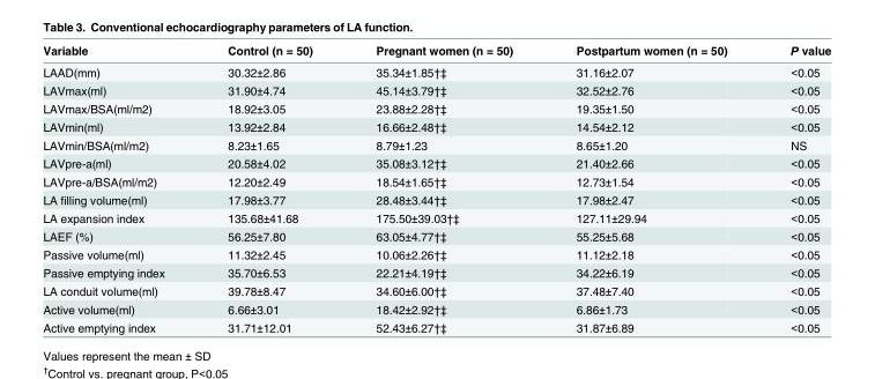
<table><thead><tr><td>Variable</td><td>Control (n = 50)</td><td>Pregnant women (n = 50)</td><td>Postpartum women (n = 50)</td><td>P value</td></tr></thead><tbody><tr><td>LAAD(mm)</td><td>30.32±2.86</td><td>35.34±1.85†‡</td><td>31.16±2.07</td><td>&lt;0.05</td></tr><tr><td>LAVmax(ml)</td><td>31.90±4.74</td><td>45.14±3.79†‡</td><td>32.52±2.76</td><td>&lt;0.05</td></tr><tr><td>LAVmax/BSA(ml/m2)</td><td>18.92±3.05</td><td>23.88±2.28†‡</td><td>19.35±1.50</td><td>&lt;0.05</td></tr><tr><td>LAVmin(ml)</td><td>13.92±2.84</td><td>16.66±2.48†‡</td><td>14.54±2.12</td><td>&lt;0.05</td></tr><tr><td>LAVmin/BSA(ml/m2)</td><td>8.23±1.65</td><td>8.79±1.23</td><td>8.65±1.20</td><td>NS</td></tr><tr><td>LAVpre-a(ml)</td><td>20.58±4.02</td><td>35.08±3.12†‡</td><td>21.40±2.66</td><td>&lt;0.05</td></tr><tr><td>LAVpre-a/BSA(ml/m2)</td><td>12.20±2.49</td><td>18.54±1.65†‡</td><td>12.73±1.54</td><td>&lt;0.05</td></tr><tr><td>LA filling volume(ml)</td><td>17.98±3.77</td><td>28.48±3.44†‡</td><td>17.98±2.47</td><td>&lt;0.05</td></tr><tr><td>LA expansion index</td><td>135.68±41.68</td><td>175.50±39.03†‡</td><td>127.11±29.94</td><td>&lt;0.05</td></tr><tr><td>LAEF (%)</td><td>56.25±7.80</td><td>63.05±4.77†‡</td><td>55.25±5.68</td><td>&lt;0.05</td></tr><tr><td>Passive volume(ml)</td><td>11.32±2.45</td><td>10.06±2.26†‡</td><td>11.12±2.18</td><td>&lt;0.05</td></tr><tr><td>Passive emptying index</td><td>35.70±6.53</td><td>22.21±4.19†‡</td><td>34.22±6.19</td><td>&lt;0.05</td></tr><tr><td>LA conduit volume(ml)</td><td>39.78±8.47</td><td>34.60±6.00†‡</td><td>37.48±7.40</td><td>&lt;0.05</td></tr><tr><td>Active volume(ml)</td><td>6.66±3.01</td><td>18.42±2.92†‡</td><td>6.86±1.73</td><td>&lt;0.05</td></tr><tr><td>Active emptying index</td><td>31.71±12.01</td><td>52.43±6.27†‡</td><td>31.87±6.89</td><td>&lt;0.05</td></tr></tbody></table>